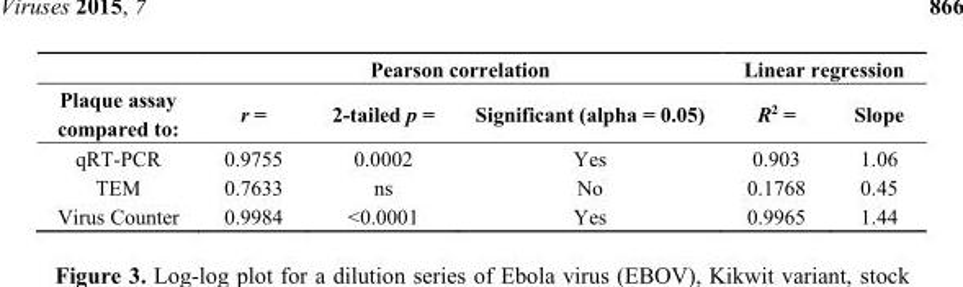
<table><thead><tr><td rowspan="2">Plaque assay compared to:</td><td colspan="3">Pearson correlation</td><td colspan="2">Linear regression</td></tr><tr><td>r =</td><td>2-tailed p =</td><td>Significant (alpha = 0.05)</td><td>R<sup>2</sup> =</td><td>Slope</td></tr></thead><tbody><tr><td>qRT-PCR</td><td>0.9755</td><td>0.0002</td><td>Yes</td><td>0.903</td><td>1.06</td></tr><tr><td>TEM</td><td>0.7633</td><td>ns</td><td>No</td><td>0.1768</td><td>0.45</td></tr><tr><td>Virus Counter</td><td>0.9984</td><td>&lt;0.0001</td><td>Yes</td><td>0.9965</td><td>1.44</td></tr></tbody></table>